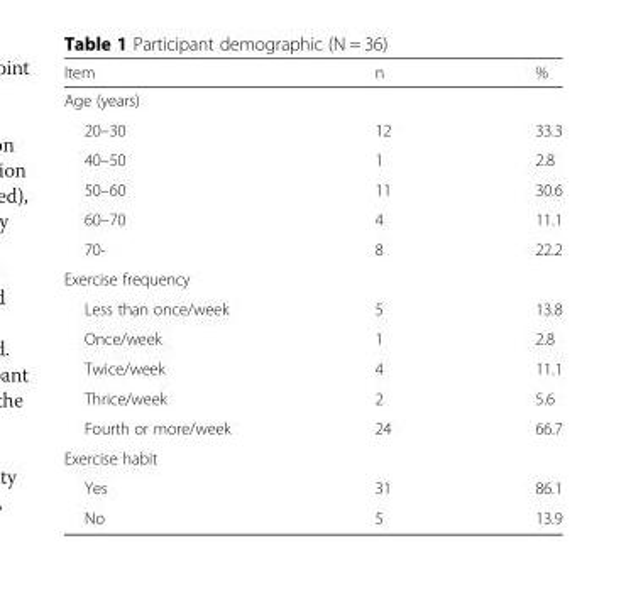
<table><thead><tr><td>Item</td><td>n</td><td>%</td></tr></thead><tbody><tr><td colspan="3">Age (years)</td></tr><tr><td>20–30</td><td>12</td><td>33.3</td></tr><tr><td>40–50</td><td>1</td><td>2.8</td></tr><tr><td>50–60</td><td>11</td><td>30.6</td></tr><tr><td>60–70</td><td>4</td><td>11.1</td></tr><tr><td>70-</td><td>8</td><td>22.2</td></tr><tr><td colspan="3">Exercise frequency</td></tr><tr><td>Less than once/week</td><td>5</td><td>13.8</td></tr><tr><td>Once/week</td><td>1</td><td>2.8</td></tr><tr><td>Twice/week</td><td>4</td><td>11.1</td></tr><tr><td>Thrice/week</td><td>2</td><td>5.6</td></tr><tr><td>Fourth or more/week</td><td>24</td><td>66.7</td></tr><tr><td colspan="3">Exercise habit</td></tr><tr><td>Yes</td><td>31</td><td>86.1</td></tr><tr><td>No</td><td>5</td><td>13.9</td></tr></tbody></table>